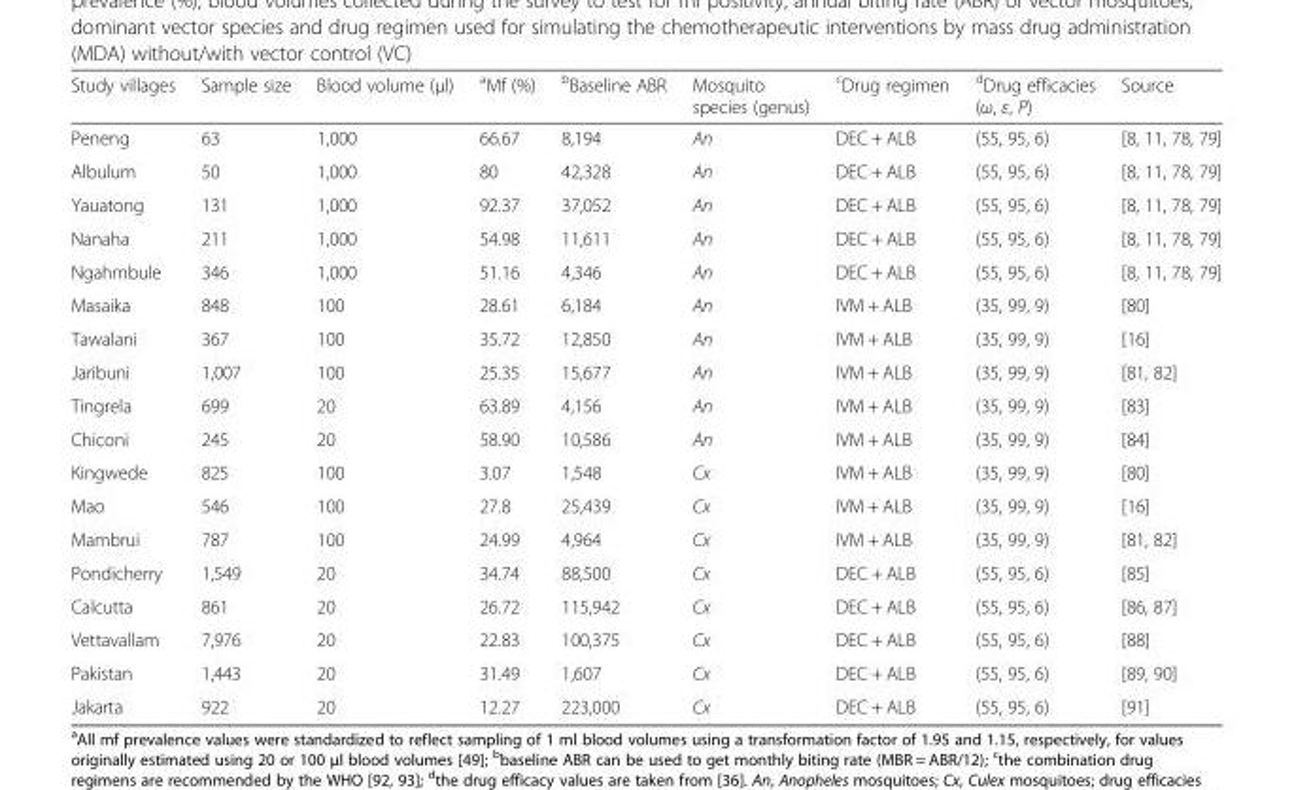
<table><thead><tr><td>Study villages</td><td>Sample size</td><td>Blood volume (μl)</td><td><sup>a</sup>Mf (%)</td><td><sup>b</sup>Baseline ABR</td><td>Mosquito species (genus)</td><td><sup>c</sup>Drug regimen</td><td><sup>d</sup>Drug efficacies (ω, ε, P)</td><td>Source</td></tr></thead><tbody><tr><td>Peneng</td><td>63</td><td>1,000</td><td>66.67</td><td>8,194</td><td>An</td><td>DEC + ALB</td><td>(55, 95, 6)</td><td>[8, 11, 78, 79]</td></tr><tr><td>Albulum</td><td>50</td><td>1,000</td><td>80</td><td>42,328</td><td>An</td><td>DEC + ALB</td><td>(55, 95, 6)</td><td>[8, 11, 78, 79]</td></tr><tr><td>Yauatong</td><td>131</td><td>1,000</td><td>92.37</td><td>37,052</td><td>An</td><td>DEC + ALB</td><td>(55, 95, 6)</td><td>[8, 11, 78, 79]</td></tr><tr><td>Nanaha</td><td>211</td><td>1,000</td><td>54.98</td><td>11,611</td><td>An</td><td>DEC + ALB</td><td>(55, 95, 6)</td><td>[8, 11, 78, 79]</td></tr><tr><td>Ngahmbule</td><td>346</td><td>1,000</td><td>51.16</td><td>4,346</td><td>An</td><td>DEC + ALB</td><td>(55, 95, 6)</td><td>[8, 11, 78, 79]</td></tr><tr><td>Masaika</td><td>848</td><td>100</td><td>28.61</td><td>6,184</td><td>An</td><td>IVM + ALB</td><td>(35, 99, 9)</td><td>[80]</td></tr><tr><td>Tawalani</td><td>367</td><td>100</td><td>35.72</td><td>12,850</td><td>An</td><td>IVM + ALB</td><td>(35, 99, 9)</td><td>[16]</td></tr><tr><td>Jaribuni</td><td>1,007</td><td>100</td><td>25.35</td><td>15,677</td><td>An</td><td>IVM + ALB</td><td>(35, 99, 9)</td><td>[81, 82]</td></tr><tr><td>Tingrela</td><td>699</td><td>20</td><td>63.89</td><td>4,156</td><td>An</td><td>IVM + ALB</td><td>(35, 99, 9)</td><td>[83]</td></tr><tr><td>Chiconi</td><td>245</td><td>20</td><td>58.90</td><td>10,586</td><td>An</td><td>IVM + ALB</td><td>(35, 99, 9)</td><td>[84]</td></tr><tr><td>Kingwede</td><td>825</td><td>100</td><td>3.07</td><td>1,548</td><td>Cx</td><td>IVM + ALB</td><td>(35, 99, 9)</td><td>[80]</td></tr><tr><td>Mao</td><td>546</td><td>100</td><td>27.8</td><td>25,439</td><td>Cx</td><td>IVM + ALB</td><td>(35, 99, 9)</td><td>[16]</td></tr><tr><td>Mambrui</td><td>787</td><td>100</td><td>24.99</td><td>4,964</td><td>Cx</td><td>IVM + ALB</td><td>(35, 99, 9)</td><td>[81, 82]</td></tr><tr><td>Pondicherry</td><td>1,549</td><td>20</td><td>34.74</td><td>88,500</td><td>Cx</td><td>DEC + ALB</td><td>(55, 95, 6)</td><td>[85]</td></tr><tr><td>Calcutta</td><td>861</td><td>20</td><td>26.72</td><td>115,942</td><td>Cx</td><td>DEC + ALB</td><td>(55, 95, 6)</td><td>[86, 87]</td></tr><tr><td>Vettavallam</td><td>7,976</td><td>20</td><td>22.83</td><td>100,375</td><td>Cx</td><td>DEC + ALB</td><td>(55, 95, 6)</td><td>[88]</td></tr><tr><td>Pakistan</td><td>1,443</td><td>20</td><td>31.49</td><td>1,607</td><td>Cx</td><td>DEC + ALB</td><td>(55, 95, 6)</td><td>[89, 90]</td></tr><tr><td>Jakarta</td><td>922</td><td>20</td><td>12.27</td><td>223,000</td><td>Cx</td><td>DEC + ALB</td><td>(55, 95, 6)</td><td>[91]</td></tr></tbody></table>